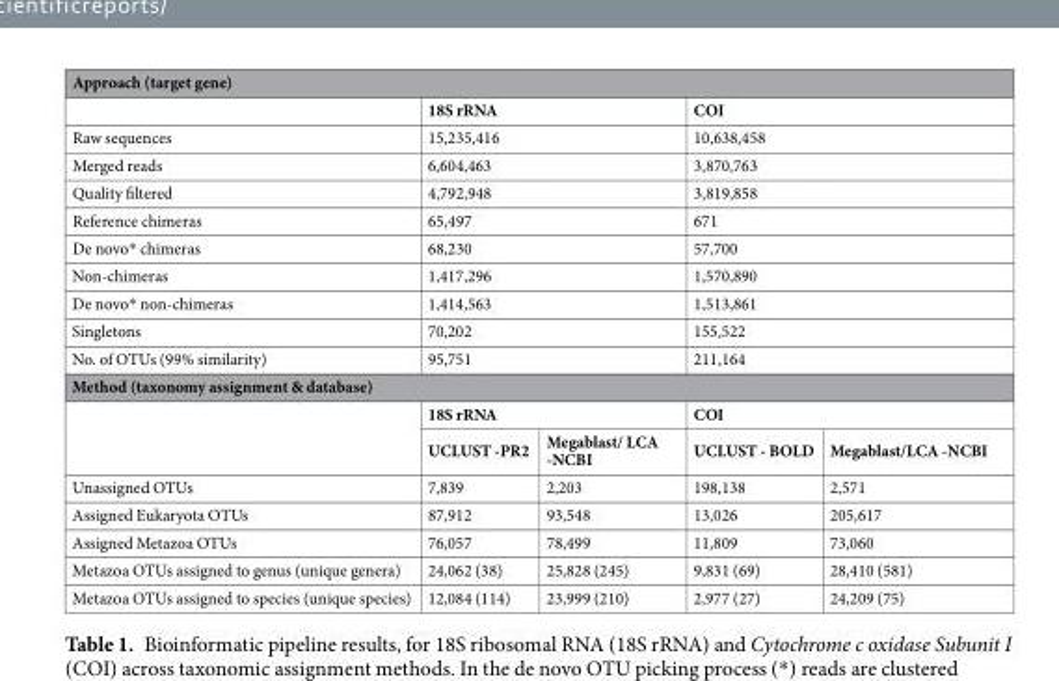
<table><thead><tr><td colspan="5">Approach (target gene)</td></tr></thead><tbody><tr><td></td><td colspan="2">18S rRNA</td><td colspan="2">COI</td></tr><tr><td>Raw sequences</td><td colspan="2">15,235,416</td><td colspan="2">10,638,458</td></tr><tr><td>Merged reads</td><td colspan="2">6,604,463</td><td colspan="2">3,870,763</td></tr><tr><td>Quality filtered</td><td colspan="2">4,792,948</td><td colspan="2">3,819,858</td></tr><tr><td>Reference chimeras</td><td colspan="2">65,497</td><td colspan="2">671</td></tr><tr><td>De novo* chimeras</td><td colspan="2">68,230</td><td colspan="2">57,700</td></tr><tr><td>Non-chimeras</td><td colspan="2">1,417,296</td><td colspan="2">1,570,890</td></tr><tr><td>De novo* non-chimeras</td><td colspan="2">1,414,563</td><td colspan="2">1,513,861</td></tr><tr><td>Singletons</td><td colspan="2">70,202</td><td colspan="2">155,522</td></tr><tr><td>No. of OTUs (99% similarity)</td><td colspan="2">95,751</td><td colspan="2">211,164</td></tr><tr><td colspan="5">Method (taxonomy assignment &amp; database)</td></tr><tr><td rowspan="2"></td><td colspan="2">18S rRNA</td><td colspan="2">COI</td></tr><tr><td>UCLUST -PR2</td><td>Megablast/ LCA -NCBI</td><td>UCLUST - BOLD</td><td>Megablast/LCA -NCBI</td></tr><tr><td>Unassigned OTUs</td><td>7,839</td><td>2,203</td><td>198,138</td><td>2,571</td></tr><tr><td>Assigned Eukaryota OTUs</td><td>87,912</td><td>93,548</td><td>13,026</td><td>205,617</td></tr><tr><td>Assigned Metazoa OTUs</td><td>76,057</td><td>78,499</td><td>11,809</td><td>73,060</td></tr><tr><td>Metazoa OTUs assigned to genus (unique genera)</td><td>24,062 (38)</td><td>25,828 (245)</td><td>9,831 (69)</td><td>28,410 (581)</td></tr><tr><td>Metazoa OTUs assigned to species (unique species)</td><td>12,084 (114)</td><td>23,999 (210)</td><td>2,977 (27)</td><td>24,209 (75)</td></tr></tbody></table>